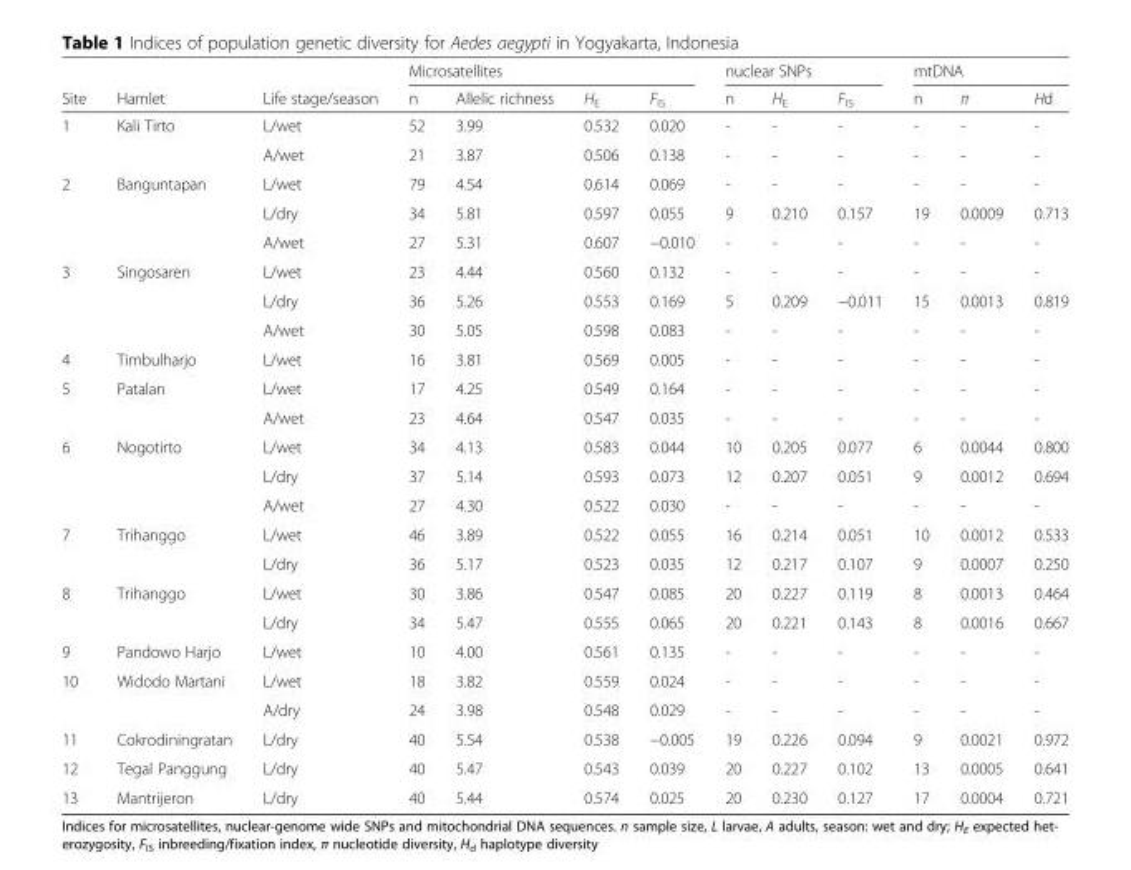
<table><thead><tr><td rowspan="2">Site</td><td rowspan="2">Hamlet</td><td rowspan="2">Life stage/season</td><td colspan="4">Microsatellites</td><td colspan="3">nuclear SNPs</td><td colspan="3">mtDNA</td></tr><tr><td>n</td><td>Allelic richness</td><td>H<sub>E</sub></td><td>F<sub>IS</sub></td><td>n</td><td>H<sub>E</sub></td><td>F<sub>IS</sub></td><td>n</td><td>π</td><td>Hd</td></tr></thead><tbody><tr><td rowspan="2">1</td><td>Kali Tirto</td><td>L/wet</td><td>52</td><td>3.99</td><td>0.532</td><td>0.020</td><td>-</td><td>-</td><td>-</td><td>-</td><td>-</td><td>-</td></tr><tr><td></td><td>A/wet</td><td>21</td><td>3.87</td><td>0.506</td><td>0.138</td><td>-</td><td>-</td><td>-</td><td>-</td><td>-</td><td>-</td></tr><tr><td rowspan="3">2</td><td>Banguntapan</td><td>L/wet</td><td>79</td><td>4.54</td><td>0.614</td><td>0.069</td><td>-</td><td>-</td><td>-</td><td>-</td><td>-</td><td>-</td></tr><tr><td></td><td>L/dry</td><td>34</td><td>5.81</td><td>0.597</td><td>0.055</td><td>9</td><td>0.210</td><td>0.157</td><td>19</td><td>0.0009</td><td>0.713</td></tr><tr><td></td><td>A/wet</td><td>27</td><td>5.31</td><td>0.607</td><td>−0.010</td><td>-</td><td>-</td><td>-</td><td>-</td><td>-</td><td>-</td></tr><tr><td rowspan="3">3</td><td>Singosaren</td><td>L/wet</td><td>23</td><td>4.44</td><td>0.560</td><td>0.132</td><td>-</td><td>-</td><td>-</td><td>-</td><td>-</td><td>-</td></tr><tr><td></td><td>L/dry</td><td>36</td><td>5.26</td><td>0.553</td><td>0.169</td><td>5</td><td>0.209</td><td>−0.011</td><td>15</td><td>0.0013</td><td>0.819</td></tr><tr><td></td><td>A/wet</td><td>30</td><td>5.05</td><td>0.598</td><td>0.083</td><td>-</td><td>-</td><td>-</td><td>-</td><td>-</td><td>-</td></tr><tr><td>4</td><td>Timbulharjo</td><td>L/wet</td><td>16</td><td>3.81</td><td>0.569</td><td>0.005</td><td>-</td><td>-</td><td>-</td><td>-</td><td>-</td><td>-</td></tr><tr><td rowspan="2">5</td><td>Patalan</td><td>L/wet</td><td>17</td><td>4.25</td><td>0.549</td><td>0.164</td><td>-</td><td>-</td><td>-</td><td>-</td><td>-</td><td>-</td></tr><tr><td></td><td>A/wet</td><td>23</td><td>4.64</td><td>0.547</td><td>0.035</td><td>-</td><td>-</td><td>-</td><td>-</td><td>-</td><td>-</td></tr><tr><td rowspan="3">6</td><td>Nogotirto</td><td>L/wet</td><td>34</td><td>4.13</td><td>0.583</td><td>0.044</td><td>10</td><td>0.205</td><td>0.077</td><td>6</td><td>0.0044</td><td>0.800</td></tr><tr><td></td><td>L/dry</td><td>37</td><td>5.14</td><td>0.593</td><td>0.073</td><td>12</td><td>0.207</td><td>0.051</td><td>9</td><td>0.0012</td><td>0.694</td></tr><tr><td></td><td>A/wet</td><td>27</td><td>4.30</td><td>0.522</td><td>0.030</td><td>-</td><td>-</td><td>-</td><td>-</td><td>-</td><td>-</td></tr><tr><td rowspan="2">7</td><td>Trihanggo</td><td>L/wet</td><td>46</td><td>3.89</td><td>0.522</td><td>0.055</td><td>16</td><td>0.214</td><td>0.051</td><td>10</td><td>0.0012</td><td>0.533</td></tr><tr><td></td><td>L/dry</td><td>36</td><td>5.17</td><td>0.523</td><td>0.035</td><td>12</td><td>0.217</td><td>0.107</td><td>9</td><td>0.0007</td><td>0.250</td></tr><tr><td rowspan="2">8</td><td>Trihanggo</td><td>L/wet</td><td>30</td><td>3.86</td><td>0.547</td><td>0.085</td><td>20</td><td>0.227</td><td>0.119</td><td>8</td><td>0.0013</td><td>0.464</td></tr><tr><td></td><td>L/dry</td><td>34</td><td>5.47</td><td>0.555</td><td>0.065</td><td>20</td><td>0.221</td><td>0.143</td><td>8</td><td>0.0016</td><td>0.667</td></tr><tr><td>9</td><td>Pandowo Harjo</td><td>L/wet</td><td>10</td><td>4.00</td><td>0.561</td><td>0.135</td><td>-</td><td>-</td><td>-</td><td>-</td><td>-</td><td>-</td></tr><tr><td rowspan="2">10</td><td>Widodo Martani</td><td>L/wet</td><td>18</td><td>3.82</td><td>0.559</td><td>0.024</td><td>-</td><td>-</td><td>-</td><td>-</td><td>-</td><td>-</td></tr><tr><td></td><td>A/dry</td><td>24</td><td>3.98</td><td>0.548</td><td>0.029</td><td>-</td><td>-</td><td>-</td><td>-</td><td>-</td><td>-</td></tr><tr><td>11</td><td>Cokrodiningratan</td><td>L/dry</td><td>40</td><td>5.54</td><td>0.538</td><td>−0.005</td><td>19</td><td>0.226</td><td>0.094</td><td>9</td><td>0.0021</td><td>0.972</td></tr><tr><td>12</td><td>Tegal Panggung</td><td>L/dry</td><td>40</td><td>5.47</td><td>0.543</td><td>0.039</td><td>20</td><td>0.227</td><td>0.102</td><td>13</td><td>0.0005</td><td>0.641</td></tr><tr><td>13</td><td>Mantrijeron</td><td>L/dry</td><td>40</td><td>5.44</td><td>0.574</td><td>0.025</td><td>20</td><td>0.230</td><td>0.127</td><td>17</td><td>0.0004</td><td>0.721</td></tr></tbody></table>